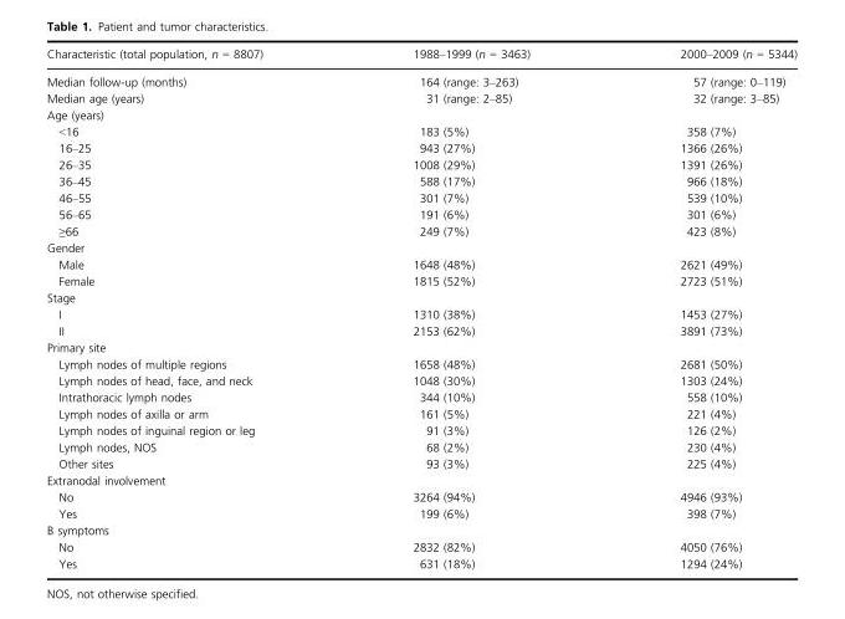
<table><thead><tr><td>Characteristic (total population, n = 8807)</td><td>1988–1999 (n = 3463)</td><td>2000–2009 (n = 5344)</td></tr></thead><tbody><tr><td>Median follow-up (months)</td><td>164 (range: 3–263)</td><td>57 (range: 0–119)</td></tr><tr><td>Median age (years)</td><td>31 (range: 2–85)</td><td>32 (range: 3–85)</td></tr><tr><td colspan="3">Age (years)</td></tr><tr><td>&lt;16</td><td>183 (5%)</td><td>358 (7%)</td></tr><tr><td>16–25</td><td>943 (27%)</td><td>1366 (26%)</td></tr><tr><td>26–35</td><td>1008 (29%)</td><td>1391 (26%)</td></tr><tr><td>36–45</td><td>588 (17%)</td><td>966 (18%)</td></tr><tr><td>46–55</td><td>301 (7%)</td><td>539 (10%)</td></tr><tr><td>56–65</td><td>191 (6%)</td><td>301 (6%)</td></tr><tr><td>≥66</td><td>249 (7%)</td><td>423 (8%)</td></tr><tr><td colspan="3">Gender</td></tr><tr><td>Male</td><td>1648 (48%)</td><td>2621 (49%)</td></tr><tr><td>Female</td><td>1815 (52%)</td><td>2723 (51%)</td></tr><tr><td colspan="3">Stage</td></tr><tr><td>I</td><td>1310 (38%)</td><td>1453 (27%)</td></tr><tr><td>II</td><td>2153 (62%)</td><td>3891 (73%)</td></tr><tr><td colspan="3">Primary site</td></tr><tr><td>Lymph nodes of multiple regions</td><td>1658 (48%)</td><td>2681 (50%)</td></tr><tr><td>Lymph nodes of head, face, and neck</td><td>1048 (30%)</td><td>1303 (24%)</td></tr><tr><td>Intrathoracic lymph nodes</td><td>344 (10%)</td><td>558 (10%)</td></tr><tr><td>Lymph nodes of axilla or arm</td><td>161 (5%)</td><td>221 (4%)</td></tr><tr><td>Lymph nodes of inguinal region or leg</td><td>91 (3%)</td><td>126 (2%)</td></tr><tr><td>Lymph nodes, NOS</td><td>68 (2%)</td><td>230 (4%)</td></tr><tr><td>Other sites</td><td>93 (3%)</td><td>225 (4%)</td></tr><tr><td colspan="3">Extranodal involvement</td></tr><tr><td>No</td><td>3264 (94%)</td><td>4946 (93%)</td></tr><tr><td>Yes</td><td>199 (6%)</td><td>398 (7%)</td></tr><tr><td colspan="3">B symptoms</td></tr><tr><td>No</td><td>2832 (82%)</td><td>4050 (76%)</td></tr><tr><td>Yes</td><td>631 (18%)</td><td>1294 (24%)</td></tr></tbody></table>